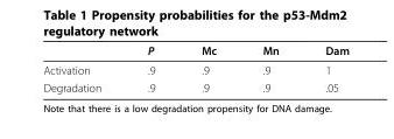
<table><thead><tr><td></td><td>P</td><td>Mc</td><td>Mn</td><td>Dam</td></tr></thead><tbody><tr><td>Activation</td><td>.9</td><td>.9</td><td>.9</td><td>1</td></tr><tr><td>Degradation</td><td>.9</td><td>.9</td><td>.9</td><td>.05</td></tr></tbody></table>